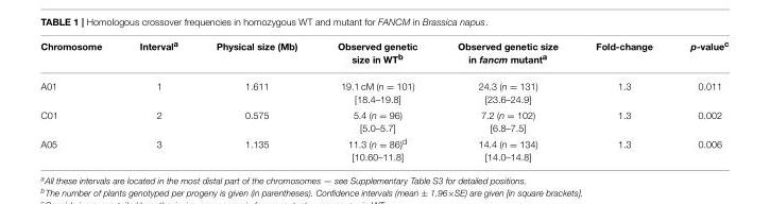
<table><thead><tr><td>Chromosome</td><td>Interval<sup>a</sup></td><td>Physical size (Mb)</td><td>Observed genetic size in WT<sup>b</sup></td><td>Observed genetic size in fancm mutant<sup>a</sup></td><td>Fold-change</td><td>p-value<sup>c</sup></td></tr></thead><tbody><tr><td>A01</td><td>1</td><td>1.611</td><td>19.1 cM (n = 101) [18.4–19.8]</td><td>24.3 (n = 131) [23.6–24.9]</td><td>1.3</td><td>0.011</td></tr><tr><td>C01</td><td>2</td><td>0.575</td><td>5.4 (n = 96) [5.0–5.7]</td><td>7.2 (n = 102) [6.8–7.5]</td><td>1.3</td><td>0.002</td></tr><tr><td>A05</td><td>3</td><td>1.135</td><td>11.3 (n = 86)<sup>d</sup> [10.60–11.8]</td><td>14.4 (n = 134) [14.0–14.8]</td><td>1.3</td><td>0.006</td></tr></tbody></table>